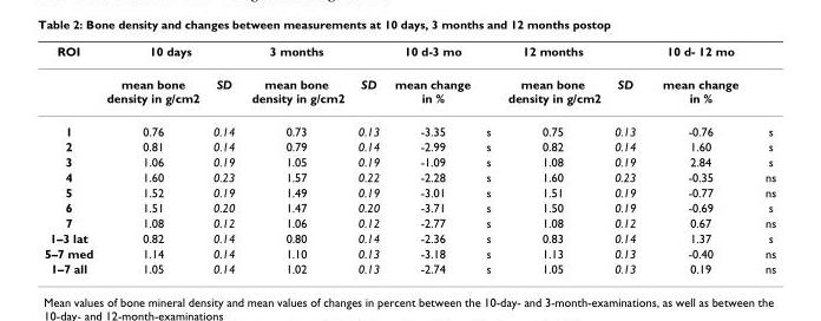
<table><thead><tr><td rowspan="2">ROI</td><td colspan="2">10 days</td><td rowspan="2">3 months mean bone density in g/cm2</td><td rowspan="2">SD</td><td rowspan="2">10 d-3 mo mean change in %</td><td rowspan="2"></td><td rowspan="2">12 months mean bone density in g/cm2</td><td rowspan="2">SD</td><td rowspan="2">10 d- 12 mo mean change in %</td><td rowspan="2"></td></tr><tr><td>mean bone density in g/cm2</td><td>SD</td></tr></thead><tbody><tr><td>1</td><td>0.76</td><td>0.14</td><td>0.73</td><td>0.13</td><td>-3.35</td><td>s</td><td>0.75</td><td>0.13</td><td>-0.76</td><td>s</td></tr><tr><td>2</td><td>0.81</td><td>0.14</td><td>0.79</td><td>0.14</td><td>-2.99</td><td>s</td><td>0.82</td><td>0.14</td><td>1.60</td><td>s</td></tr><tr><td>3</td><td>1.06</td><td>0.19</td><td>1.05</td><td>0.19</td><td>-1.09</td><td>s</td><td>1.08</td><td>0.19</td><td>2.84</td><td>s</td></tr><tr><td>4</td><td>1.60</td><td>0.23</td><td>1.57</td><td>0.22</td><td>-2.28</td><td>s</td><td>1.60</td><td>0.23</td><td>-0.35</td><td>ns</td></tr><tr><td>5</td><td>1.52</td><td>0.19</td><td>1.49</td><td>0.19</td><td>-3.01</td><td>s</td><td>1.51</td><td>0.19</td><td>-0.77</td><td>ns</td></tr><tr><td>6</td><td>1.51</td><td>0.20</td><td>1.47</td><td>0.20</td><td>-3.71</td><td>s</td><td>1.50</td><td>0.19</td><td>-0.69</td><td>s</td></tr><tr><td>7</td><td>1.08</td><td>0.12</td><td>1.06</td><td>0.12</td><td>-2.77</td><td>s</td><td>1.08</td><td>0.12</td><td>0.67</td><td>ns</td></tr><tr><td>1–3 lat</td><td>0.82</td><td>0.14</td><td>0.80</td><td>0.14</td><td>-2.36</td><td>s</td><td>0.83</td><td>0.14</td><td>1.37</td><td>s</td></tr><tr><td>5–7 med</td><td>1.14</td><td>0.14</td><td>1.10</td><td>0.13</td><td>-3.18</td><td>s</td><td>1.13</td><td>0.13</td><td>-0.40</td><td>ns</td></tr><tr><td>1–7 all</td><td>1.05</td><td>0.14</td><td>1.02</td><td>0.13</td><td>-2.74</td><td>s</td><td>1.05</td><td>0.13</td><td>0.19</td><td>ns</td></tr></tbody></table>